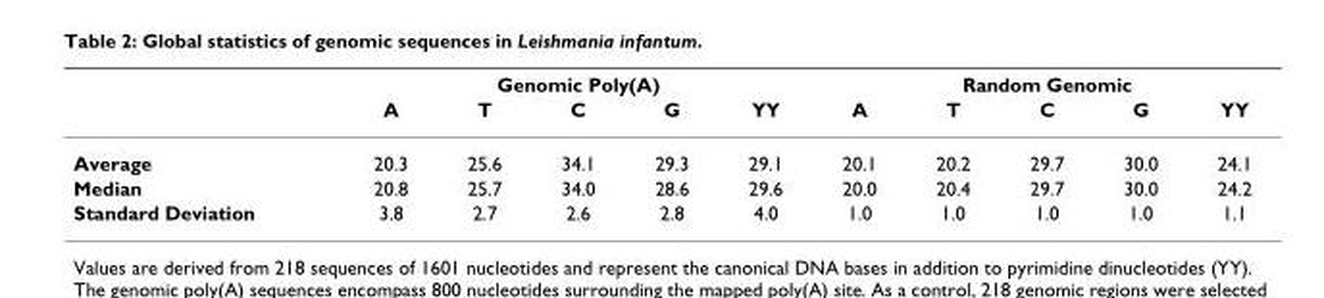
<table><thead><tr><td rowspan="2"></td><td colspan="5">Genomic Poly(A)</td><td colspan="5">Random Genomic</td></tr><tr><td>A</td><td>T</td><td>C</td><td>G</td><td>YY</td><td>A</td><td>T</td><td>C</td><td>G</td><td>YY</td></tr></thead><tbody><tr><td>Average</td><td>20.3</td><td>25.6</td><td>34.1</td><td>29.3</td><td>29.1</td><td>20.1</td><td>20.2</td><td>29.7</td><td>30.0</td><td>24.1</td></tr><tr><td>Median</td><td>20.8</td><td>25.7</td><td>34.0</td><td>28.6</td><td>29.6</td><td>20.0</td><td>20.4</td><td>29.7</td><td>30.0</td><td>24.2</td></tr><tr><td>Standard Deviation</td><td>3.8</td><td>2.7</td><td>2.6</td><td>2.8</td><td>4.0</td><td>1.0</td><td>1.0</td><td>1.0</td><td>1.0</td><td>1.1</td></tr></tbody></table>